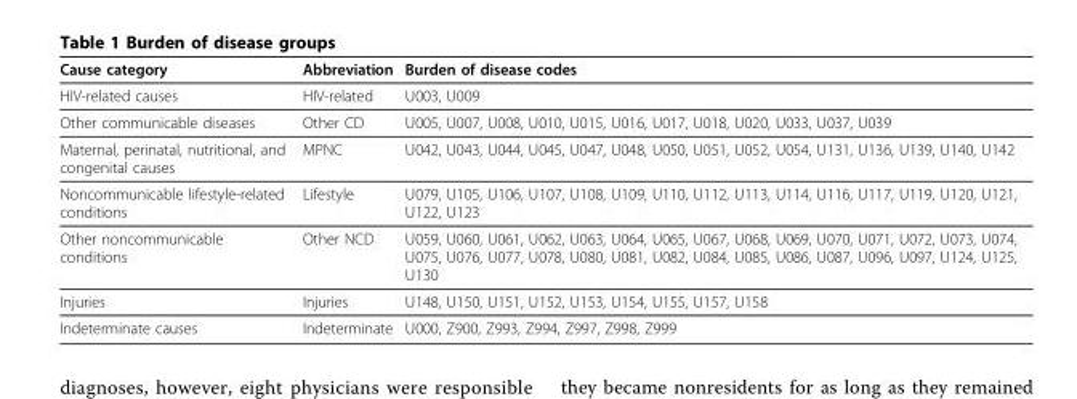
<table><thead><tr><td>Cause category</td><td>Abbreviation</td><td>Burden of disease codes</td></tr></thead><tbody><tr><td>HIV-related causes</td><td>HIV-related</td><td>U003, U009</td></tr><tr><td>Other communicable diseases</td><td>Other CD</td><td>U005, U007, U008, U010, U015, U016, U017, U018, U020, U033, U037, U039</td></tr><tr><td>Maternal, perinatal, nutritional, and congenital causes</td><td>MPNC</td><td>U042, U043, U044, U045, U047, U048, U050, U051, U052, U054, U131, U136, U139, U140, U142</td></tr><tr><td>Noncommunicable lifestyle-related conditions</td><td>Lifestyle</td><td>U079, U105, U106, U107, U108, U109, U110, U112, U113, U114, U116, U117, U119, U120, U121, U122, U123</td></tr><tr><td>Other noncommunicable conditions</td><td>Other NCD</td><td>U059, U060, U061, U062, U063, U064, U065, U067, U068, U069, U070, U071, U072, U073, U074, U075, U076, U077, U078, U080, U081, U082, U084, U085, U086, U087, U096, U097, U124, U125, U130</td></tr><tr><td>Injuries</td><td>Injuries</td><td>U148, U150, U151, U152, U153, U154, U155, U157, U158</td></tr><tr><td>Indeterminate causes</td><td>Indeterminate</td><td>U000, Z900, Z993, Z994, Z997, Z998, Z999</td></tr></tbody></table>